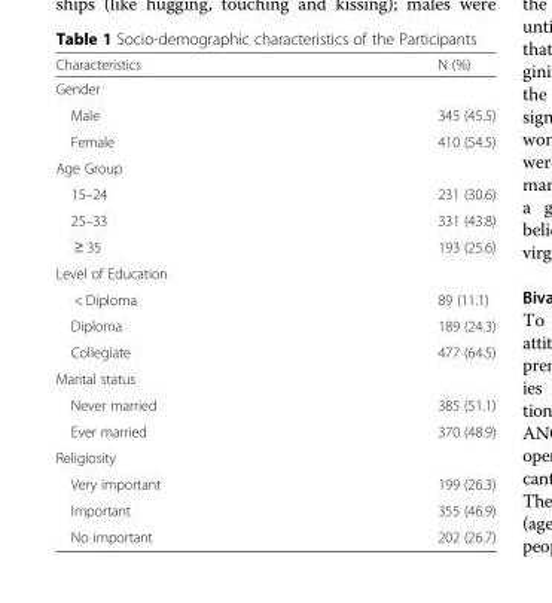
<table><thead><tr><td>Characteristics</td><td>N (%)</td></tr></thead><tbody><tr><td colspan="2">Gender</td></tr><tr><td>Male</td><td>345 (45.5)</td></tr><tr><td>Female</td><td>410 (54.5)</td></tr><tr><td colspan="2">Age Group</td></tr><tr><td>15–24</td><td>231 (30.6)</td></tr><tr><td>25–33</td><td>331 (43.8)</td></tr><tr><td>≥ 35</td><td>193 (25.6)</td></tr><tr><td colspan="2">Level of Education</td></tr><tr><td>&lt; Diploma</td><td>89 (11.1)</td></tr><tr><td>Diploma</td><td>189 (24.3)</td></tr><tr><td>Collegiate</td><td>477 (64.5)</td></tr><tr><td colspan="2">Marital status</td></tr><tr><td>Never married</td><td>385 (51.1)</td></tr><tr><td>Ever married</td><td>370 (48.9)</td></tr><tr><td colspan="2">Religiosity</td></tr><tr><td>Very important</td><td>199 (26.3)</td></tr><tr><td>Important</td><td>355 (46.9)</td></tr><tr><td>No important</td><td>202 (26.7)</td></tr></tbody></table>